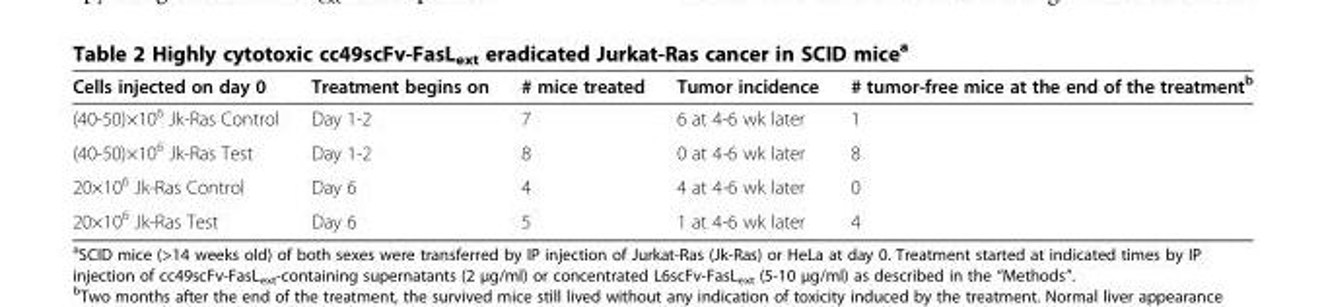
<table><thead><tr><td>Cells injected on day 0</td><td>Treatment begins on</td><td># mice treated</td><td>Tumor incidence</td><td># tumor-free mice at the end of the treatment<sup>b</sup></td></tr></thead><tbody><tr><td>(40-50)×10<sup>6</sup> Jk-Ras Control</td><td>Day 1-2</td><td>7</td><td>6 at 4-6 wk later</td><td>1</td></tr><tr><td>(40-50)×10<sup>6</sup> Jk-Ras Test</td><td>Day 1-2</td><td>8</td><td>0 at 4-6 wk later</td><td>8</td></tr><tr><td>20×10<sup>6</sup> Jk-Ras Control</td><td>Day 6</td><td>4</td><td>4 at 4-6 wk later</td><td>0</td></tr><tr><td>20×10<sup>6</sup> Jk-Ras Test</td><td>Day 6</td><td>5</td><td>1 at 4-6 wk later</td><td>4</td></tr></tbody></table>